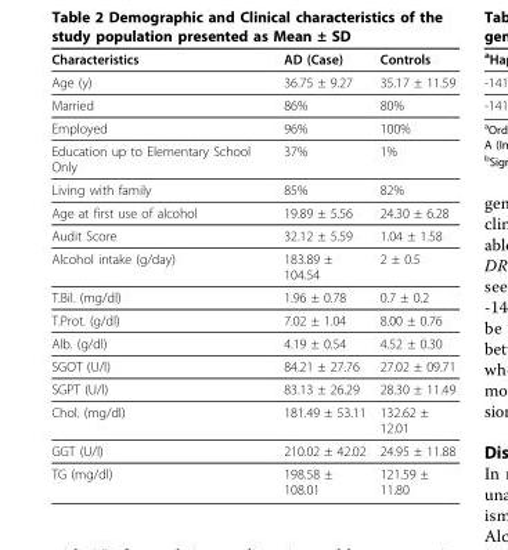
<table><thead><tr><td>Characteristics</td><td>AD (Case)</td><td>Controls</td></tr></thead><tbody><tr><td>Age (y)</td><td>36.75 ± 9.27</td><td>35.17 ± 11.59</td></tr><tr><td>Married</td><td>86%</td><td>80%</td></tr><tr><td>Employed</td><td>96%</td><td>100%</td></tr><tr><td>Education up to Elementary School Only</td><td>37%</td><td>1%</td></tr><tr><td>Living with family</td><td>85%</td><td>82%</td></tr><tr><td>Age at first use of alcohol</td><td>19.89 ± 5.56</td><td>24.30 ± 6.28</td></tr><tr><td>Audit Score</td><td>32.12 ± 5.59</td><td>1.04 ± 1.58</td></tr><tr><td>Alcohol intake (g/day)</td><td>183.89 ± 104.54</td><td>2 ± 0.5</td></tr><tr><td>T.Bil. (mg/dl)</td><td>1.96 ± 0.78</td><td>0.7 ± 0.2</td></tr><tr><td>T.Prot. (g/dl)</td><td>7.02 ± 1.04</td><td>8.00 ± 0.76</td></tr><tr><td>Alb. (g/dl)</td><td>4.19 ± 0.54</td><td>4.52 ± 0.30</td></tr><tr><td>SGOT (U/l)</td><td>84.21 ± 27.76</td><td>27.02 ± 09.71</td></tr><tr><td>SGPT (U/l)</td><td>83.13 ± 26.29</td><td>28.30 ± 11.49</td></tr><tr><td>Chol. (mg/dl)</td><td>181.49 ± 53.11</td><td>132.62 ± 12.01</td></tr><tr><td>GGT (U/l)</td><td>210.02 ± 42.02</td><td>24.95 ± 11.88</td></tr><tr><td>TG (mg/dl)</td><td>198.58 ± 108.01</td><td>121.59 ± 11.80</td></tr></tbody></table>